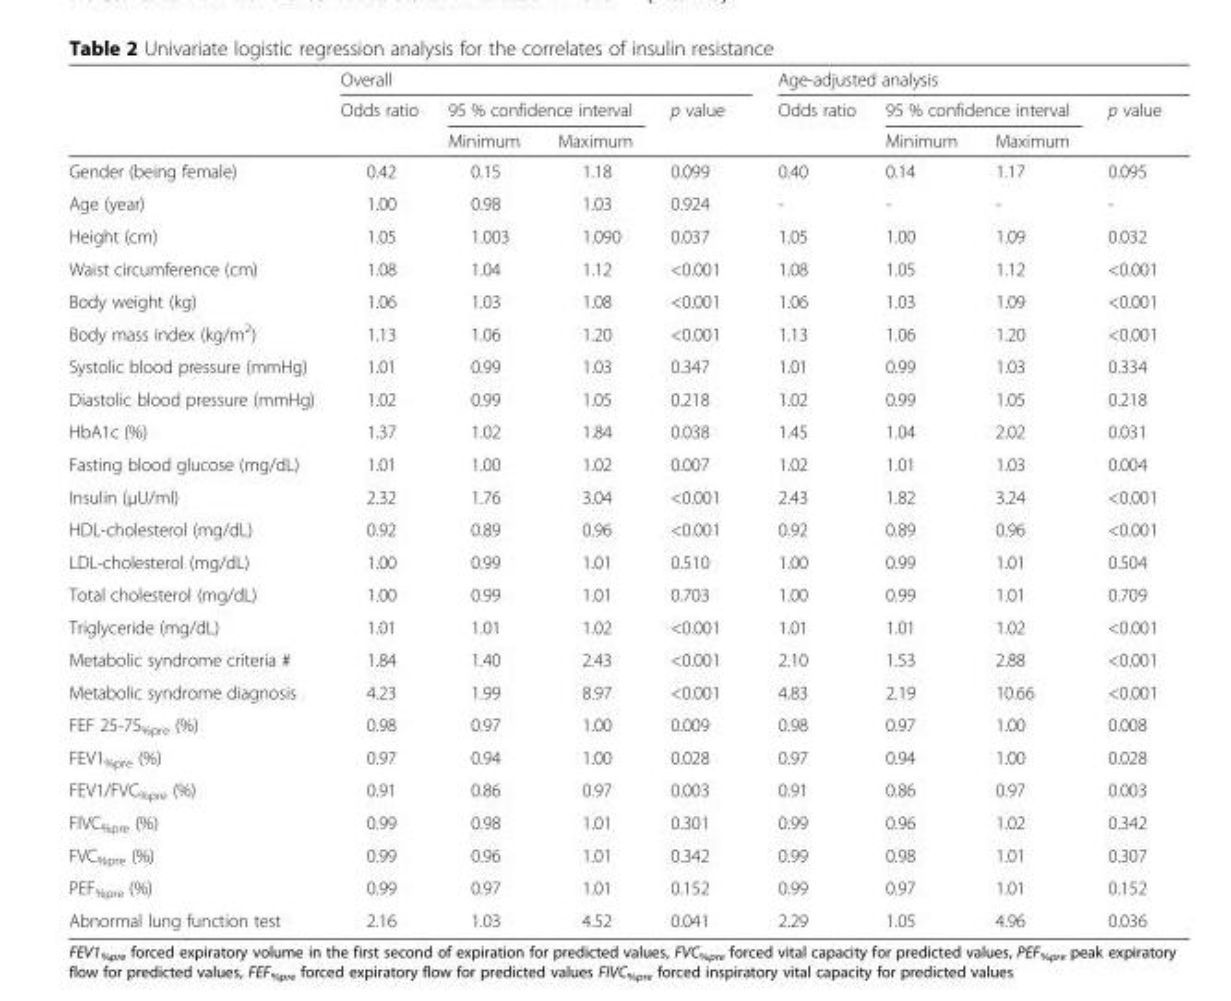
<table><thead><tr><td rowspan="3"></td><td colspan="4">Overall</td><td colspan="4">Age-adjusted analysis</td></tr><tr><td rowspan="2">Odds ratio</td><td colspan="2">95 % confidence interval</td><td rowspan="2">p value</td><td rowspan="2">Odds ratio</td><td colspan="2">95 % confidence interval</td><td rowspan="2">p value</td></tr><tr><td>Minimum</td><td>Maximum</td><td>Minimum</td><td>Maximum</td></tr></thead><tbody><tr><td>Gender (being female)</td><td>0.42</td><td>0.15</td><td>1.18</td><td>0.099</td><td>0.40</td><td>0.14</td><td>1.17</td><td>0.095</td></tr><tr><td>Age (year)</td><td>1.00</td><td>0.98</td><td>1.03</td><td>0.924</td><td>-</td><td>-</td><td>-</td><td>-</td></tr><tr><td>Height (cm)</td><td>1.05</td><td>1.003</td><td>1.090</td><td>0.037</td><td>1.05</td><td>1.00</td><td>1.09</td><td>0.032</td></tr><tr><td>Waist circumference (cm)</td><td>1.08</td><td>1.04</td><td>1.12</td><td>&lt;0.001</td><td>1.08</td><td>1.05</td><td>1.12</td><td>&lt;0.001</td></tr><tr><td>Body weight (kg)</td><td>1.06</td><td>1.03</td><td>1.08</td><td>&lt;0.001</td><td>1.06</td><td>1.03</td><td>1.09</td><td>&lt;0.001</td></tr><tr><td>Body mass index (kg/m<sup>2</sup>)</td><td>1.13</td><td>1.06</td><td>1.20</td><td>&lt;0.001</td><td>1.13</td><td>1.06</td><td>1.20</td><td>&lt;0.001</td></tr><tr><td>Systolic blood pressure (mmHg)</td><td>1.01</td><td>0.99</td><td>1.03</td><td>0.347</td><td>1.01</td><td>0.99</td><td>1.03</td><td>0.334</td></tr><tr><td>Diastolic blood pressure (mmHg)</td><td>1.02</td><td>0.99</td><td>1.05</td><td>0.218</td><td>1.02</td><td>0.99</td><td>1.05</td><td>0.218</td></tr><tr><td>HbA1c (%)</td><td>1.37</td><td>1.02</td><td>1.84</td><td>0.038</td><td>1.45</td><td>1.04</td><td>2.02</td><td>0.031</td></tr><tr><td>Fasting blood glucose (mg/dL)</td><td>1.01</td><td>1.00</td><td>1.02</td><td>0.007</td><td>1.02</td><td>1.01</td><td>1.03</td><td>0.004</td></tr><tr><td>Insulin (μU/ml)</td><td>2.32</td><td>1.76</td><td>3.04</td><td>&lt;0.001</td><td>2.43</td><td>1.82</td><td>3.24</td><td>&lt;0.001</td></tr><tr><td>HDL-cholesterol (mg/dL)</td><td>0.92</td><td>0.89</td><td>0.96</td><td>&lt;0.001</td><td>0.92</td><td>0.89</td><td>0.96</td><td>&lt;0.001</td></tr><tr><td>LDL-cholesterol (mg/dL)</td><td>1.00</td><td>0.99</td><td>1.01</td><td>0.510</td><td>1.00</td><td>0.99</td><td>1.01</td><td>0.504</td></tr><tr><td>Total cholesterol (mg/dL)</td><td>1.00</td><td>0.99</td><td>1.01</td><td>0.703</td><td>1.00</td><td>0.99</td><td>1.01</td><td>0.709</td></tr><tr><td>Triglyceride (mg/dL)</td><td>1.01</td><td>1.01</td><td>1.02</td><td>&lt;0.001</td><td>1.01</td><td>1.01</td><td>1.02</td><td>&lt;0.001</td></tr><tr><td>Metabolic syndrome criteria #</td><td>1.84</td><td>1.40</td><td>2.43</td><td>&lt;0.001</td><td>2.10</td><td>1.53</td><td>2.88</td><td>&lt;0.001</td></tr><tr><td>Metabolic syndrome diagnosis</td><td>4.23</td><td>1.99</td><td>8.97</td><td>&lt;0.001</td><td>4.83</td><td>2.19</td><td>10.66</td><td>&lt;0.001</td></tr><tr><td>FEF 25-75<sub>%pre</sub> (%)</td><td>0.98</td><td>0.97</td><td>1.00</td><td>0.009</td><td>0.98</td><td>0.97</td><td>1.00</td><td>0.008</td></tr><tr><td>FEV1<sub>%pre</sub> (%)</td><td>0.97</td><td>0.94</td><td>1.00</td><td>0.028</td><td>0.97</td><td>0.94</td><td>1.00</td><td>0.028</td></tr><tr><td>FEV1/FVC<sub>%pre</sub> (%)</td><td>0.91</td><td>0.86</td><td>0.97</td><td>0.003</td><td>0.91</td><td>0.86</td><td>0.97</td><td>0.003</td></tr><tr><td>FIVC<sub>%pre</sub> (%)</td><td>0.99</td><td>0.98</td><td>1.01</td><td>0.301</td><td>0.99</td><td>0.96</td><td>1.02</td><td>0.342</td></tr><tr><td>FVC<sub>%pre</sub> (%)</td><td>0.99</td><td>0.96</td><td>1.01</td><td>0.342</td><td>0.99</td><td>0.98</td><td>1.01</td><td>0.307</td></tr><tr><td>PEF<sub>%pre</sub> (%)</td><td>0.99</td><td>0.97</td><td>1.01</td><td>0.152</td><td>0.99</td><td>0.97</td><td>1.01</td><td>0.152</td></tr><tr><td>Abnormal lung function test</td><td>2.16</td><td>1.03</td><td>4.52</td><td>0.041</td><td>2.29</td><td>1.05</td><td>4.96</td><td>0.036</td></tr></tbody></table>